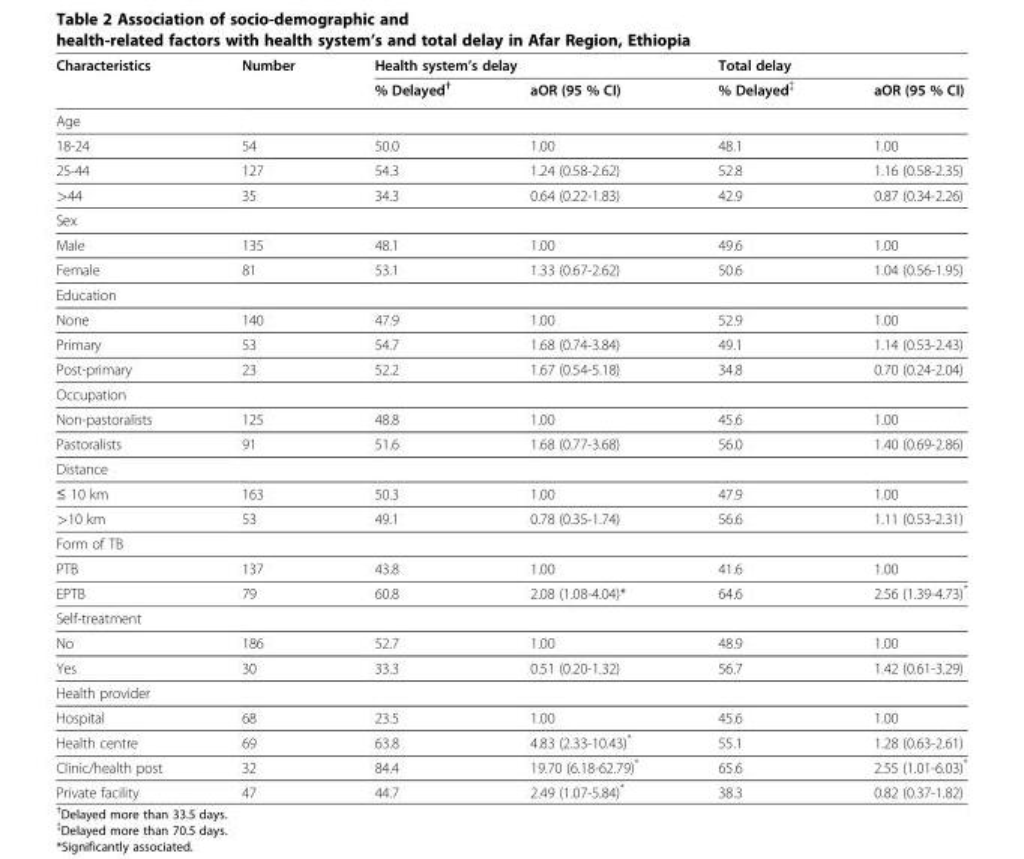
<table><thead><tr><td rowspan="2">Characteristics</td><td rowspan="2">Number</td><td colspan="2">Health system’s delay</td><td colspan="2">Total delay</td></tr><tr><td>% Delayed<sup>†</sup></td><td>aOR (95 % CI)</td><td>% Delayed<sup>‡</sup></td><td>aOR (95 % CI)</td></tr></thead><tbody><tr><td colspan="6">Age</td></tr><tr><td>18-24</td><td>54</td><td>50.0</td><td>1.00</td><td>48.1</td><td>1.00</td></tr><tr><td>25-44</td><td>127</td><td>54.3</td><td>1.24 (0.58-2.62)</td><td>52.8</td><td>1.16 (0.58-2.35)</td></tr><tr><td>&gt;44</td><td>35</td><td>34.3</td><td>0.64 (0.22-1.83)</td><td>42.9</td><td>0.87 (0.34-2.26)</td></tr><tr><td colspan="6">Sex</td></tr><tr><td>Male</td><td>135</td><td>48.1</td><td>1.00</td><td>49.6</td><td>1.00</td></tr><tr><td>Female</td><td>81</td><td>53.1</td><td>1.33 (0.67-2.62)</td><td>50.6</td><td>1.04 (0.56-1.95)</td></tr><tr><td colspan="6">Education</td></tr><tr><td>None</td><td>140</td><td>47.9</td><td>1.00</td><td>52.9</td><td>1.00</td></tr><tr><td>Primary</td><td>53</td><td>54.7</td><td>1.68 (0.74-3.84)</td><td>49.1</td><td>1.14 (0.53-2.43)</td></tr><tr><td>Post-primary</td><td>23</td><td>52.2</td><td>1.67 (0.54-5.18)</td><td>34.8</td><td>0.70 (0.24-2.04)</td></tr><tr><td colspan="6">Occupation</td></tr><tr><td>Non-pastoralists</td><td>125</td><td>48.8</td><td>1.00</td><td>45.6</td><td>1.00</td></tr><tr><td>Pastoralists</td><td>91</td><td>51.6</td><td>1.68 (0.77-3.68)</td><td>56.0</td><td>1.40 (0.69-2.86)</td></tr><tr><td colspan="6">Distance</td></tr><tr><td>≤ 10 km</td><td>163</td><td>50.3</td><td>1.00</td><td>47.9</td><td>1.00</td></tr><tr><td>&gt;10 km</td><td>53</td><td>49.1</td><td>0.78 (0.35-1.74)</td><td>56.6</td><td>1.11 (0.53-2.31)</td></tr><tr><td colspan="6">Form of TB</td></tr><tr><td>PTB</td><td>137</td><td>43.8</td><td>1.00</td><td>41.6</td><td>1.00</td></tr><tr><td>EPTB</td><td>79</td><td>60.8</td><td>2.08 (1.08-4.04)*</td><td>64.6</td><td>2.56 (1.39-4.73)*</td></tr><tr><td colspan="6">Self-treatment</td></tr><tr><td>No</td><td>186</td><td>52.7</td><td>1.00</td><td>48.9</td><td>1.00</td></tr><tr><td>Yes</td><td>30</td><td>33.3</td><td>0.51 (0.20-1.32)</td><td>56.7</td><td>1.42 (0.61-3.29)</td></tr><tr><td colspan="6">Health provider</td></tr><tr><td>Hospital</td><td>68</td><td>23.5</td><td>1.00</td><td>45.6</td><td>1.00</td></tr><tr><td>Health centre</td><td>69</td><td>63.8</td><td>4.83 (2.33-10.43)*</td><td>55.1</td><td>1.28 (0.63-2.61)</td></tr><tr><td>Clinic/health post</td><td>32</td><td>84.4</td><td>19.70 (6.18-62.79)*</td><td>65.6</td><td>2.55 (1.01-6.03)*</td></tr><tr><td>Private facility</td><td>47</td><td>44.7</td><td>2.49 (1.07-5.84)*</td><td>38.3</td><td>0.82 (0.37-1.82)</td></tr></tbody></table>